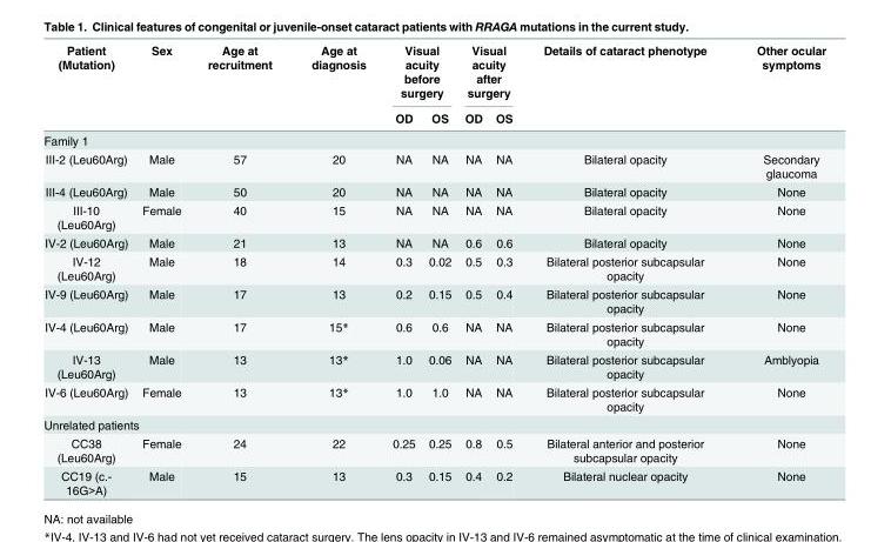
<table><thead><tr><td rowspan="2">Patient (Mutation)</td><td rowspan="2">Sex</td><td rowspan="2">Age at recruitment</td><td rowspan="2">Age at diagnosis</td><td colspan="2">Visual acuity before surgery</td><td colspan="2">Visual acuity after surgery</td><td rowspan="2">Details of cataract phenotype</td><td rowspan="2">Other ocular symptoms</td></tr><tr><td>OD</td><td>OS</td><td>OD</td><td>OS</td></tr></thead><tbody><tr><td colspan="10">Family 1</td></tr><tr><td>III-2 (Leu60Arg)</td><td>Male</td><td>57</td><td>20</td><td>NA</td><td>NA</td><td>NA</td><td>NA</td><td>Bilateral opacity</td><td>Secondary glaucoma</td></tr><tr><td>III-4 (Leu60Arg)</td><td>Male</td><td>50</td><td>20</td><td>NA</td><td>NA</td><td>NA</td><td>NA</td><td>Bilateral opacity</td><td>None</td></tr><tr><td>III-10 (Leu60Arg)</td><td>Female</td><td>40</td><td>15</td><td>NA</td><td>NA</td><td>NA</td><td>NA</td><td>Bilateral opacity</td><td>None</td></tr><tr><td>IV-2 (Leu60Arg)</td><td>Male</td><td>21</td><td>13</td><td>NA</td><td>NA</td><td>0.6</td><td>0.6</td><td>Bilateral opacity</td><td>None</td></tr><tr><td>IV-12 (Leu60Arg)</td><td>Male</td><td>18</td><td>14</td><td>0.3</td><td>0.02</td><td>0.5</td><td>0.3</td><td>Bilateral posterior subcapsular opacity</td><td>None</td></tr><tr><td>IV-9 (Leu60Arg)</td><td>Male</td><td>17</td><td>13</td><td>0.2</td><td>0.15</td><td>0.5</td><td>0.4</td><td>Bilateral posterior subcapsular opacity</td><td>None</td></tr><tr><td>IV-4 (Leu60Arg)</td><td>Male</td><td>17</td><td>15*</td><td>0.6</td><td>0.6</td><td>NA</td><td>NA</td><td>Bilateral posterior subcapsular opacity</td><td>None</td></tr><tr><td>IV-13 (Leu60Arg)</td><td>Male</td><td>13</td><td>13*</td><td>1.0</td><td>0.06</td><td>NA</td><td>NA</td><td>Bilateral posterior subcapsular opacity</td><td>Amblyopia</td></tr><tr><td>IV-6 (Leu60Arg)</td><td>Female</td><td>13</td><td>13*</td><td>1.0</td><td>1.0</td><td>NA</td><td>NA</td><td>Bilateral posterior subcapsular opacity</td><td>None</td></tr><tr><td colspan="10">Unrelated patients</td></tr><tr><td>CC38 (Leu60Arg)</td><td>Female</td><td>24</td><td>22</td><td>0.25</td><td>0.25</td><td>0.8</td><td>0.5</td><td>Bilateral anterior and posterior subcapsular opacity</td><td>None</td></tr><tr><td>CC19 (c.- 16G&gt;A)</td><td>Male</td><td>15</td><td>13</td><td>0.3</td><td>0.15</td><td>0.4</td><td>0.2</td><td>Bilateral nuclear opacity</td><td>None</td></tr></tbody></table>